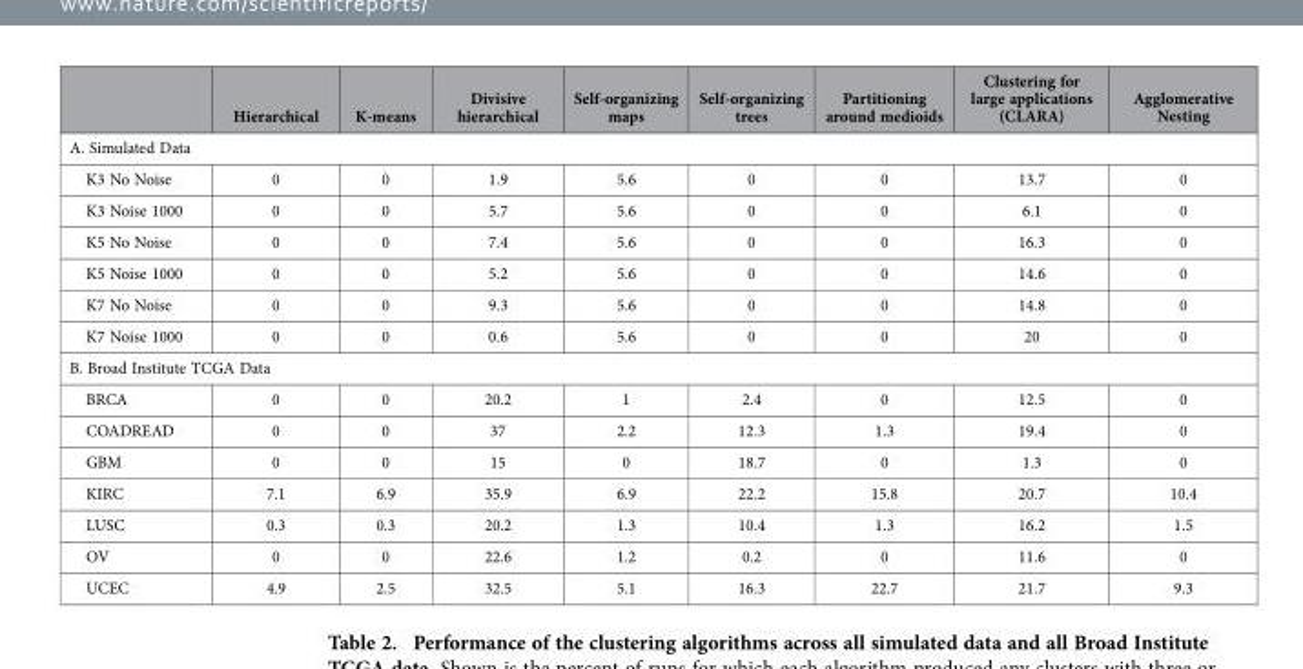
<table><thead><tr><td></td><td>Hierarchical</td><td>K-means</td><td>Divisive hierarchical</td><td>Self-organizing maps</td><td>Self-organizing trees</td><td>Partitioning around medioids</td><td>Clustering for large applications (CLARA)</td><td>Agglomerative Nesting</td></tr></thead><tbody><tr><td colspan="9">A. Simulated Data</td></tr><tr><td>K3 No Noise</td><td>0</td><td>0</td><td>1.9</td><td>5.6</td><td>0</td><td>0</td><td>13.7</td><td>0</td></tr><tr><td>K3 Noise 1000</td><td>0</td><td>0</td><td>5.7</td><td>5.6</td><td>0</td><td>0</td><td>6.1</td><td>0</td></tr><tr><td>K5 No Noise</td><td>0</td><td>0</td><td>7.4</td><td>5.6</td><td>0</td><td>0</td><td>16.3</td><td>0</td></tr><tr><td>K5 Noise 1000</td><td>0</td><td>0</td><td>5.2</td><td>5.6</td><td>0</td><td>0</td><td>14.6</td><td>0</td></tr><tr><td>K7 No Noise</td><td>0</td><td>0</td><td>9.3</td><td>5.6</td><td>0</td><td>0</td><td>14.8</td><td>0</td></tr><tr><td>K7 Noise 1000</td><td>0</td><td>0</td><td>0.6</td><td>5.6</td><td>0</td><td>0</td><td>20</td><td>0</td></tr><tr><td colspan="9">B. Broad Institute TCGA Data</td></tr><tr><td>BRCA</td><td>0</td><td>0</td><td>20.2</td><td>1</td><td>2.4</td><td>0</td><td>12.5</td><td>0</td></tr><tr><td>COADREAD</td><td>0</td><td>0</td><td>37</td><td>2.2</td><td>12.3</td><td>1.3</td><td>19.4</td><td>0</td></tr><tr><td>GBM</td><td>0</td><td>0</td><td>15</td><td>0</td><td>18.7</td><td>0</td><td>1.3</td><td>0</td></tr><tr><td>KIRC</td><td>7.1</td><td>6.9</td><td>35.9</td><td>6.9</td><td>22.2</td><td>15.8</td><td>20.7</td><td>10.4</td></tr><tr><td>LUSC</td><td>0.3</td><td>0.3</td><td>20.2</td><td>1.3</td><td>10.4</td><td>1.3</td><td>16.2</td><td>1.5</td></tr><tr><td>OV</td><td>0</td><td>0</td><td>22.6</td><td>1.2</td><td>0.2</td><td>0</td><td>11.6</td><td>0</td></tr><tr><td>UCEC</td><td>4.9</td><td>2.5</td><td>32.5</td><td>5.1</td><td>16.3</td><td>22.7</td><td>21.7</td><td>9.3</td></tr></tbody></table>